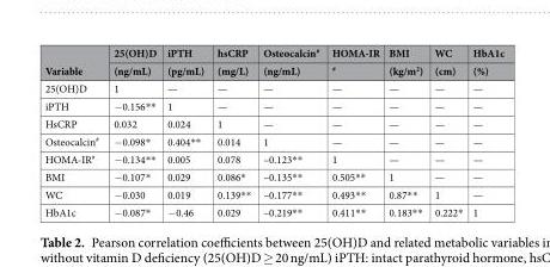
<table><thead><tr><td rowspan="2">Variable</td><td rowspan="2">25(OH)D (ng/mL)</td><td rowspan="2">iPTH (pg/mL)</td><td rowspan="2">hsCRP (mg/L)</td><td rowspan="2">Osteocalcin# (ng/mL)</td><td rowspan="2">HOMA-IR #</td><td rowspan="2">BMI (kg/m2)</td><td rowspan="2">WC (cm)</td><td rowspan="2">HbA1c (%)</td></tr><tr></tr></thead><tbody><tr><td>25(OH)D</td><td>1</td><td>—</td><td>—</td><td>—</td><td>—</td><td>—</td><td>—</td><td>—</td></tr><tr><td>iPTH</td><td>−0.156**</td><td>1</td><td>—</td><td>—</td><td>—</td><td>—</td><td>—</td><td>—</td></tr><tr><td>HsCRP</td><td>0.032</td><td>0.024</td><td>1</td><td>—</td><td>—</td><td>—</td><td>—</td><td>—</td></tr><tr><td>Osteocalcin<sup>#</sup></td><td>−0.098*</td><td>0.404**</td><td>0.014</td><td>1</td><td>—</td><td>—</td><td>—</td><td>—</td></tr><tr><td>HOMA-IR#</td><td>−0.134**</td><td>0.005</td><td>0.078</td><td>–0.123**</td><td>1</td><td>—</td><td>—</td><td>—</td></tr><tr><td>BMI</td><td>−0.107*</td><td>0.029</td><td>0.086*</td><td>–0.135**</td><td>0.505**</td><td>1</td><td>—</td><td>—</td></tr><tr><td>WC</td><td>−0.030</td><td>0.019</td><td>0.139**</td><td>–0.177**</td><td>0.493**</td><td>0.87**</td><td>1</td><td>—</td></tr><tr><td>HbA1c</td><td>−0.087*</td><td>−0.46</td><td>0.029</td><td>–0.219**</td><td>0.411**</td><td>0.183**</td><td>0.222*</td><td>1</td></tr></tbody></table>